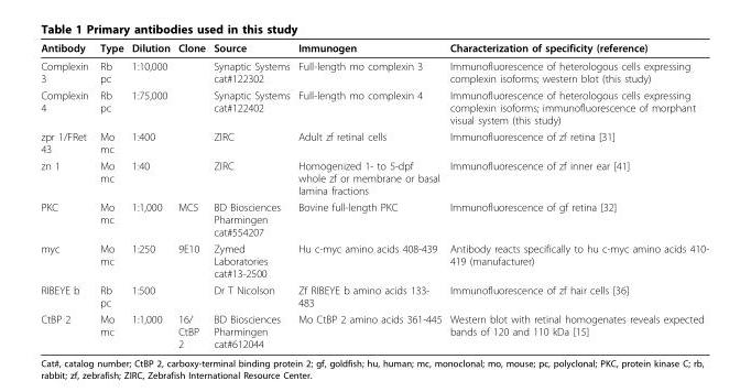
<table><thead><tr><td>Antibody</td><td>Type</td><td>Dilution</td><td>Clone</td><td>Source</td><td>Immunogen</td><td>Characterization of specificity (reference)</td></tr></thead><tbody><tr><td>Complexin 3</td><td>Rb pc</td><td>1:10,000</td><td></td><td>Synaptic Systems cat#122302</td><td>Full-length mo complexin 3</td><td>Immunofluorescence of heterologous cells expressing complexin isoforms; western blot (this study)</td></tr><tr><td>Complexin 4</td><td>Rb pc</td><td>1:75,000</td><td></td><td>Synaptic Systems cat#122402</td><td>Full-length mo complexin 4</td><td>Immunofluorescence of heterologous cells expressing complexin isoforms; immunofluorescence of morphant visual system (this study)</td></tr><tr><td>zpr 1/FRet 43</td><td>Mo mc</td><td>1:400</td><td></td><td>ZIRC</td><td>Adult zf retinal cells</td><td>Immunofluorescence of zf retina [31]</td></tr><tr><td>zn 1</td><td>Mo mc</td><td>1:40</td><td></td><td>ZIRC</td><td>Homogenized 1- to 5-dpf whole zf or membrane or basal lamina fractions</td><td>Immunofluorescence of zf inner ear [41]</td></tr><tr><td>PKC</td><td>Mo mc</td><td>1:1,000</td><td>MC5</td><td>BD Biosciences Pharmingen cat#554207</td><td>Bovine full-length PKC</td><td>Immunofluorescence of gf retina [32]</td></tr><tr><td>myc</td><td>Mo mc</td><td>1:250</td><td>9E10</td><td>Zymed Laboratories cat#13-2500</td><td>Hu c-myc amino acids 408-439</td><td>Antibody reacts specifically to hu c-myc amino acids 410- 419 (manufacturer)</td></tr><tr><td>RIBEYE b</td><td>Rb pc</td><td>1:500</td><td></td><td>Dr T Nicolson</td><td>Zf RIBEYE b amino acids 133- 483</td><td>Immunofluorescence of zf hair cells [36]</td></tr><tr><td>CtBP 2</td><td>Mo mc</td><td>1:1,000</td><td>16/ CtBP 2</td><td>BD Biosciences Pharmingen cat#612044</td><td>Mo CtBP 2 amino acids 361-445</td><td>Western blot with retinal homogenates reveals expected bands of 120 and 110 kDa [15]</td></tr></tbody></table>